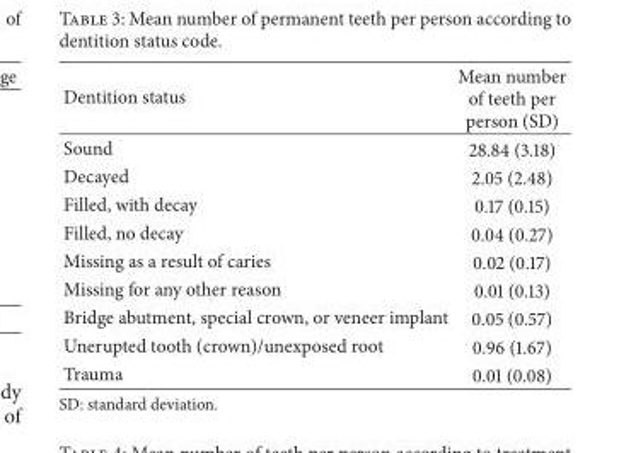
<table><thead><tr><td>Dentition status</td><td>Mean number of teeth per person (SD)</td></tr></thead><tbody><tr><td>Sound</td><td>28.84 (3.18)</td></tr><tr><td>Decayed</td><td>2.05 (2.48)</td></tr><tr><td>Filled, with decay</td><td>0.17 (0.15)</td></tr><tr><td>Filled, no decay</td><td>0.04 (0.27)</td></tr><tr><td>Missing as a result of caries</td><td>0.02 (0.17)</td></tr><tr><td>Missing for any other reason</td><td>0.01 (0.13)</td></tr><tr><td>Bridge abutment, special crown, or veneer implant</td><td>0.05 (0.57)</td></tr><tr><td>Unerupted tooth (crown)/unexposed root</td><td>0.96 (1.67)</td></tr><tr><td>Trauma</td><td>0.01 (0.08)</td></tr></tbody></table>